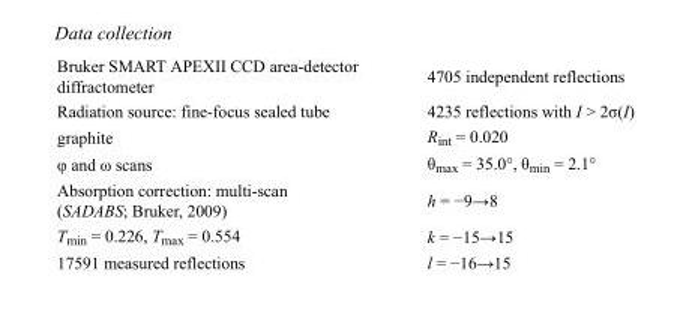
<table><tbody><tr><td>Bruker SMART APEXII CCD area-detector diffractometer</td><td>4705 independent reflections</td></tr><tr><td>Radiation source: fine-focus sealed tube</td><td>4235 reflections with I &gt; 2σ(I)</td></tr><tr><td>graphite</td><td>R<sub>int</sub> = 0.020</td></tr><tr><td>φ and ω scans</td><td>θ<sub>max</sub> = 35.0°, θ<sub>min</sub> = 2.1°</td></tr><tr><td>Absorption correction: multi-scan (SADABS; Bruker, 2009)</td><td>h = −9→8</td></tr><tr><td>T<sub>min</sub> = 0.226, T<sub>max</sub> = 0.554</td><td>k = −15→15</td></tr><tr><td>17591 measured reflections</td><td>l = −16→15</td></tr></tbody></table>